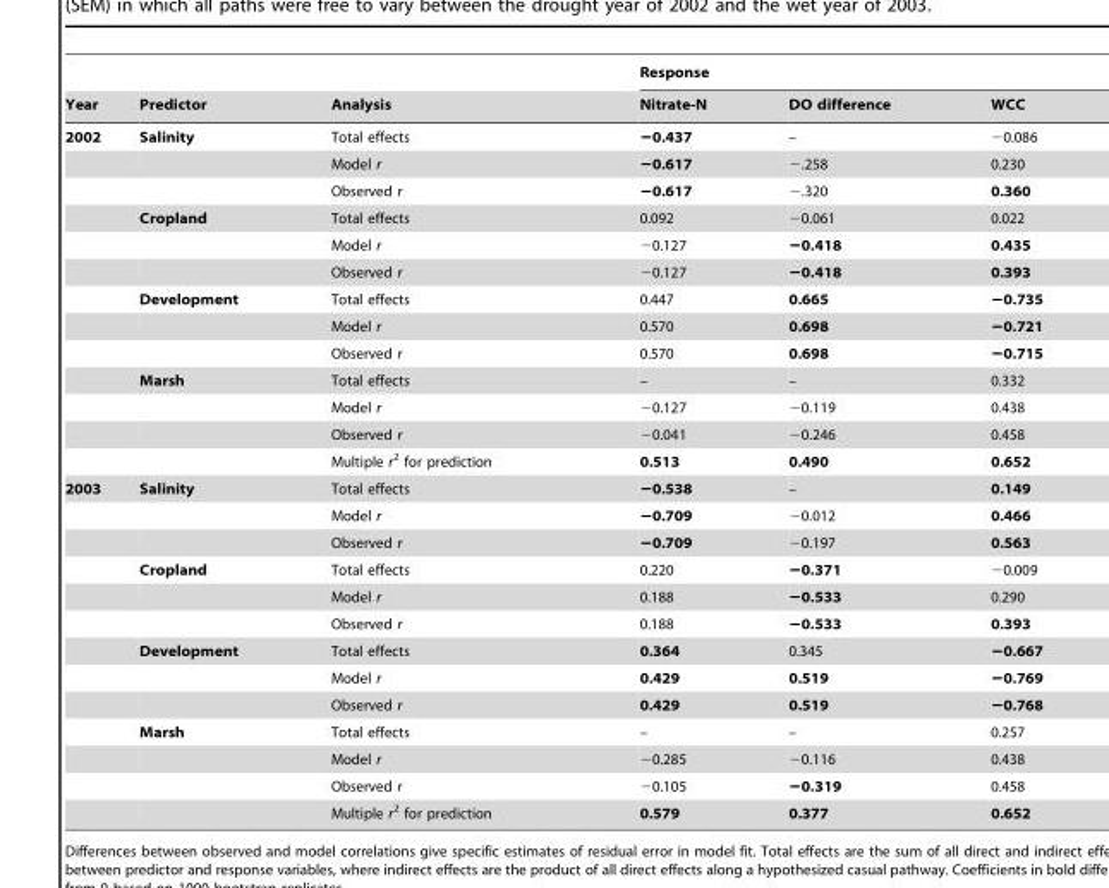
<table><thead><tr><td rowspan="2">Year</td><td rowspan="2">Predictor</td><td rowspan="2">Analysis</td><td colspan="3">Response</td></tr><tr><td>Nitrate-N</td><td>DO difference</td><td>WCC</td></tr></thead><tbody><tr><td rowspan="13">2002</td><td>Salinity</td><td>Total effects</td><td>−0.437</td><td>–</td><td>−0.086</td></tr><tr><td></td><td>Model r</td><td>−0.617</td><td>−.258</td><td>0.230</td></tr><tr><td></td><td>Observed r</td><td>−0.617</td><td>−.320</td><td>0.360</td></tr><tr><td>Cropland</td><td>Total effects</td><td>0.092</td><td>−0.061</td><td>0.022</td></tr><tr><td></td><td>Model r</td><td>−0.127</td><td>−0.418</td><td>0.435</td></tr><tr><td></td><td>Observed r</td><td>−0.127</td><td>−0.418</td><td>0.393</td></tr><tr><td>Development</td><td>Total effects</td><td>0.447</td><td>0.665</td><td>−0.735</td></tr><tr><td></td><td>Model r</td><td>0.570</td><td>0.698</td><td>−0.721</td></tr><tr><td></td><td>Observed r</td><td>0.570</td><td>0.698</td><td>−0.715</td></tr><tr><td>Marsh</td><td>Total effects</td><td>–</td><td>–</td><td>0.332</td></tr><tr><td></td><td>Model r</td><td>−0.127</td><td>−0.119</td><td>0.438</td></tr><tr><td></td><td>Observed r</td><td>−0.041</td><td>−0.246</td><td>0.458</td></tr><tr><td></td><td>Multiple r<sup>2</sup> for prediction</td><td>0.513</td><td>0.490</td><td>0.652</td></tr><tr><td rowspan="13">2003</td><td>Salinity</td><td>Total effects</td><td>−0.538</td><td>–</td><td>0.149</td></tr><tr><td></td><td>Model r</td><td>−0.709</td><td>−0.012</td><td>0.466</td></tr><tr><td></td><td>Observed r</td><td>−0.709</td><td>−0.197</td><td>0.563</td></tr><tr><td>Cropland</td><td>Total effects</td><td>0.220</td><td>−0.371</td><td>−0.009</td></tr><tr><td></td><td>Model r</td><td>0.188</td><td>−0.533</td><td>0.290</td></tr><tr><td></td><td>Observed r</td><td>0.188</td><td>−0.533</td><td>0.393</td></tr><tr><td>Development</td><td>Total effects</td><td>0.364</td><td>0.345</td><td>−0.667</td></tr><tr><td></td><td>Model r</td><td>0.429</td><td>0.519</td><td>−0.769</td></tr><tr><td></td><td>Observed r</td><td>0.429</td><td>0.519</td><td>−0.768</td></tr><tr><td>Marsh</td><td>Total effects</td><td>–</td><td>–</td><td>0.257</td></tr><tr><td></td><td>Model r</td><td>−0.285</td><td>−0.116</td><td>0.438</td></tr><tr><td></td><td>Observed r</td><td>−0.105</td><td>−0.319</td><td>0.458</td></tr><tr><td></td><td>Multiple r<sup>2</sup> for prediction</td><td>0.579</td><td>0.377</td><td>0.652</td></tr></tbody></table>